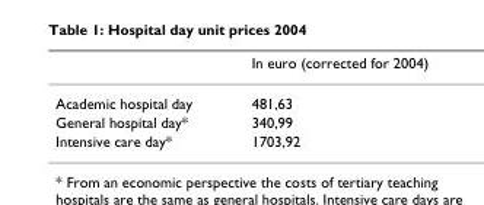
<table><thead><tr><td></td><td>In euro (corrected for 2004)</td></tr></thead><tbody><tr><td>Academic hospital day</td><td>481,63</td></tr><tr><td>General hospital day*</td><td>340,99</td></tr><tr><td>Intensive care day*</td><td>1703,92</td></tr></tbody></table>